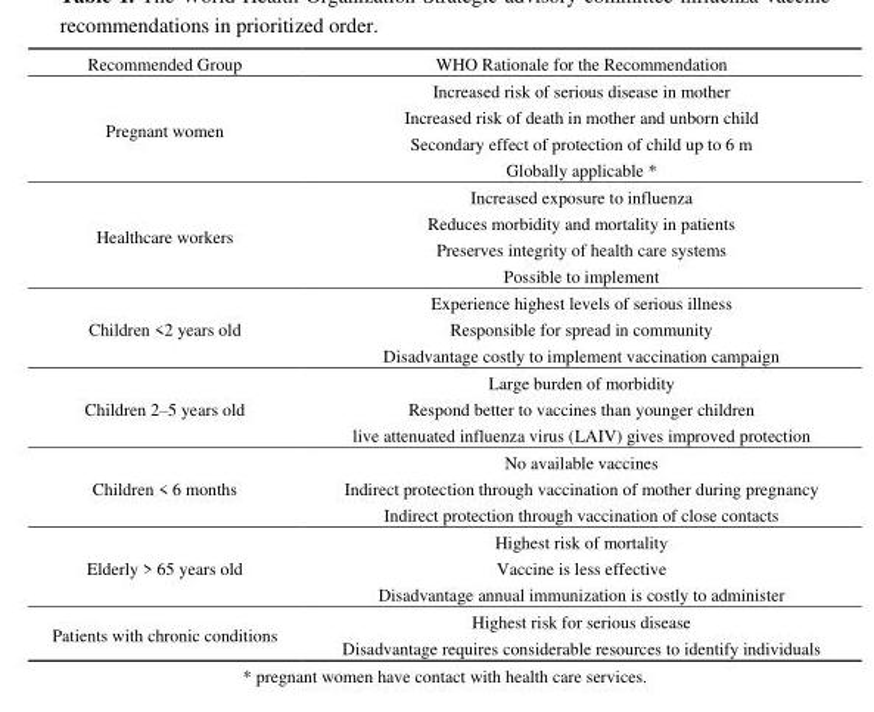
<table><thead><tr><td>Recommended Group</td><td>WHO Rationale for the Recommendation</td></tr></thead><tbody><tr><td rowspan="4">Pregnant women</td><td>Increased risk of serious disease in mother</td></tr><tr><td>Increased risk of death in mother and unborn child</td></tr><tr><td>Secondary effect of protection of child up to 6 m</td></tr><tr><td>Globally applicable *</td></tr><tr><td rowspan="4">Healthcare workers</td><td>Increased exposure to influenza</td></tr><tr><td>Reduces morbidity and mortality in patients</td></tr><tr><td>Preserves integrity of health care systems</td></tr><tr><td>Possible to implement</td></tr><tr><td rowspan="3">Children &lt;2 years old</td><td>Experience highest levels of serious illness</td></tr><tr><td>Responsible for spread in community</td></tr><tr><td>Disadvantage costly to implement vaccination campaign</td></tr><tr><td rowspan="3">Children 2–5 years old</td><td>Large burden of morbidity</td></tr><tr><td>Respond better to vaccines than younger children</td></tr><tr><td>live attenuated influenza virus (LAIV) gives improved protection</td></tr><tr><td rowspan="3">Children &lt; 6 months</td><td>No available vaccines</td></tr><tr><td>Indirect protection through vaccination of mother during pregnancy</td></tr><tr><td>Indirect protection through vaccination of close contacts</td></tr><tr><td rowspan="3">Elderly &gt; 65 years old</td><td>Highest risk of mortality</td></tr><tr><td>Vaccine is less effective</td></tr><tr><td>Disadvantage annual immunization is costly to administer</td></tr><tr><td rowspan="2">Patients with chronic conditions</td><td>Highest risk for serious disease</td></tr><tr><td>Disadvantage requires considerable resources to identify individuals</td></tr></tbody></table>